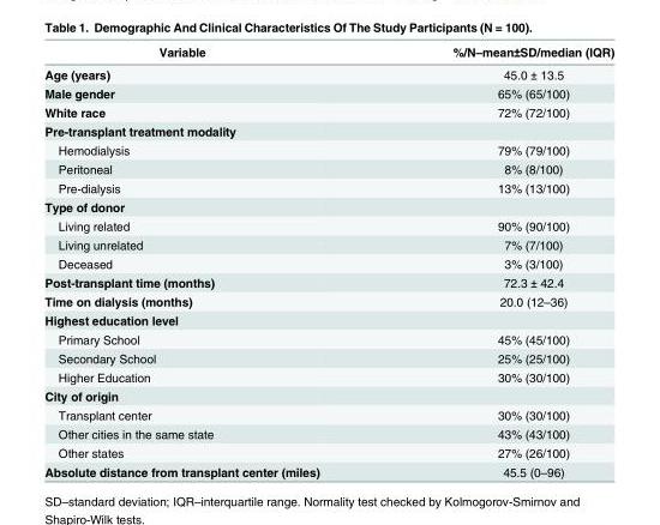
<table><thead><tr><td>Variable</td><td>%/N–mean±SD/median (IQR)</td></tr></thead><tbody><tr><td>Age (years)</td><td>45.0 ± 13.5</td></tr><tr><td>Male gender</td><td>65% (65/100)</td></tr><tr><td>White race</td><td>72% (72/100)</td></tr><tr><td colspan="2">Pre-transplant treatment modality</td></tr><tr><td>Hemodialysis</td><td>79% (79/100)</td></tr><tr><td>Peritoneal</td><td>8% (8/100)</td></tr><tr><td>Pre-dialysis</td><td>13% (13/100)</td></tr><tr><td colspan="2">Type of donor</td></tr><tr><td>Living related</td><td>90% (90/100)</td></tr><tr><td>Living unrelated</td><td>7% (7/100)</td></tr><tr><td>Deceased</td><td>3% (3/100)</td></tr><tr><td>Post-transplant time (months)</td><td>72.3 ± 42.4</td></tr><tr><td>Time on dialysis (months)</td><td>20.0 (12–36)</td></tr><tr><td colspan="2">Highest education level</td></tr><tr><td>Primary School</td><td>45% (45/100)</td></tr><tr><td>Secondary School</td><td>25% (25/100)</td></tr><tr><td>Higher Education</td><td>30% (30/100)</td></tr><tr><td colspan="2">City of origin</td></tr><tr><td>Transplant center</td><td>30% (30/100)</td></tr><tr><td>Other cities in the same state</td><td>43% (43/100)</td></tr><tr><td>Other states</td><td>27% (26/100)</td></tr><tr><td>Absolute distance from transplant center (miles)</td><td>45.5 (0–96)</td></tr></tbody></table>